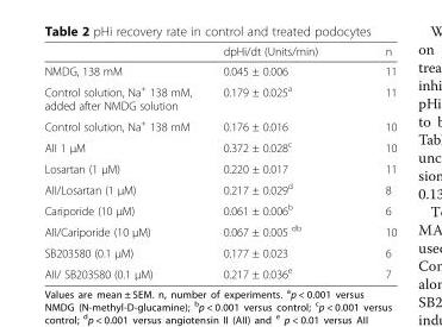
<table><thead><tr><td></td><td>dpHi/dt (Units/min)</td><td>n</td></tr></thead><tbody><tr><td>NMDG, 138 mM</td><td>0.045 ± 0.006</td><td>11</td></tr><tr><td>Control solution, Na<sup>+</sup> 138 mM, added after NMDG solution</td><td>0.179 ± 0.025<sup>a</sup></td><td>11</td></tr><tr><td>Control solution, Na<sup>+</sup> 138 mM</td><td>0.176 ± 0.016</td><td>10</td></tr><tr><td>AII 1 μM</td><td>0.372 ± 0.028<sup>c</sup></td><td>10</td></tr><tr><td>Losartan (1 μM)</td><td>0.220 ± 0.017</td><td>11</td></tr><tr><td>AII/Losartan (1 μM)</td><td>0.217 ± 0.029<sup>d</sup></td><td>8</td></tr><tr><td>Cariporide (10 μM)</td><td>0.061 ± 0.006<sup>b</sup></td><td>6</td></tr><tr><td>AII/Cariporide (10 μM)</td><td>0.067 ± 0.005 <sup>db</sup></td><td>10</td></tr><tr><td>SB203580 (0.1 μM)</td><td>0.177 ± 0.023</td><td>6</td></tr><tr><td>AII/ SB203580 (0.1 μM)</td><td>0.217 ± 0.036<sup>e</sup></td><td>7</td></tr></tbody></table>